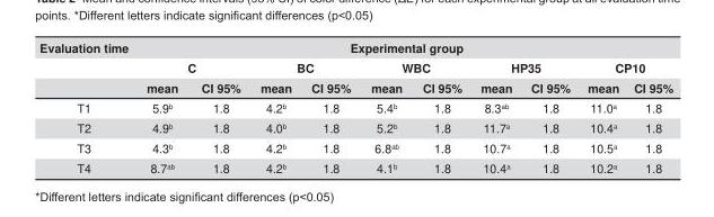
<table><thead><tr><td rowspan="3">Evaluation time</td><td colspan="10">Experimental group</td></tr><tr><td colspan="2">C</td><td colspan="2">BC</td><td colspan="2">WBC</td><td colspan="2">HP35</td><td colspan="2">CP10</td></tr><tr><td>mean</td><td>CI 95%</td><td>mean</td><td>CI 95%</td><td>mean</td><td>CI 95%</td><td>mean</td><td>CI 95%</td><td>mean</td><td>CI 95%</td></tr></thead><tbody><tr><td>T1</td><td>5.9<sup>b</sup></td><td>1.8</td><td>4.2<sup>b</sup></td><td>1.8</td><td>5.4<sup>b</sup></td><td>1.8</td><td>8.3<sup>ab</sup></td><td>1.8</td><td>11.0<sup>a</sup></td><td>1.8</td></tr><tr><td>T2</td><td>4.9<sup>b</sup></td><td>1.8</td><td>4.0<sup>b</sup></td><td>1.8</td><td>5.2<sup>b</sup></td><td>1.8</td><td>11.7<sup>a</sup></td><td>1.8</td><td>10.4<sup>a</sup></td><td>1.8</td></tr><tr><td>T3</td><td>4.3<sup>b</sup></td><td>1.8</td><td>4.2<sup>b</sup></td><td>1.8</td><td>6.8<sup>ab</sup></td><td>1.8</td><td>10.7<sup>a</sup></td><td>1.8</td><td>10.5<sup>a</sup></td><td>1.8</td></tr><tr><td>T4</td><td>8.7<sup>ab</sup></td><td>1.8</td><td>4.2<sup>b</sup></td><td>1.8</td><td>4.1<sup>b</sup></td><td>1.8</td><td>10.4<sup>a</sup></td><td>1.8</td><td>10.2<sup>a</sup></td><td>1.8</td></tr></tbody></table>